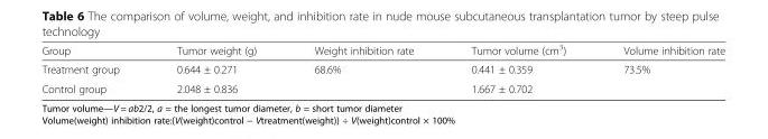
<table><thead><tr><td>Group</td><td>Tumor weight (g)</td><td>Weight inhibition rate</td><td>Tumor volume (cm<sup>3</sup>)</td><td>Volume inhibition rate</td></tr></thead><tbody><tr><td>Treatment group</td><td>0.644 ± 0.271</td><td rowspan="2">68.6%</td><td>0.441 ± 0.359</td><td rowspan="2">73.5%</td></tr><tr><td>Control group</td><td>2.048 ± 0.836</td><td>1.667 ± 0.702</td></tr></tbody></table>